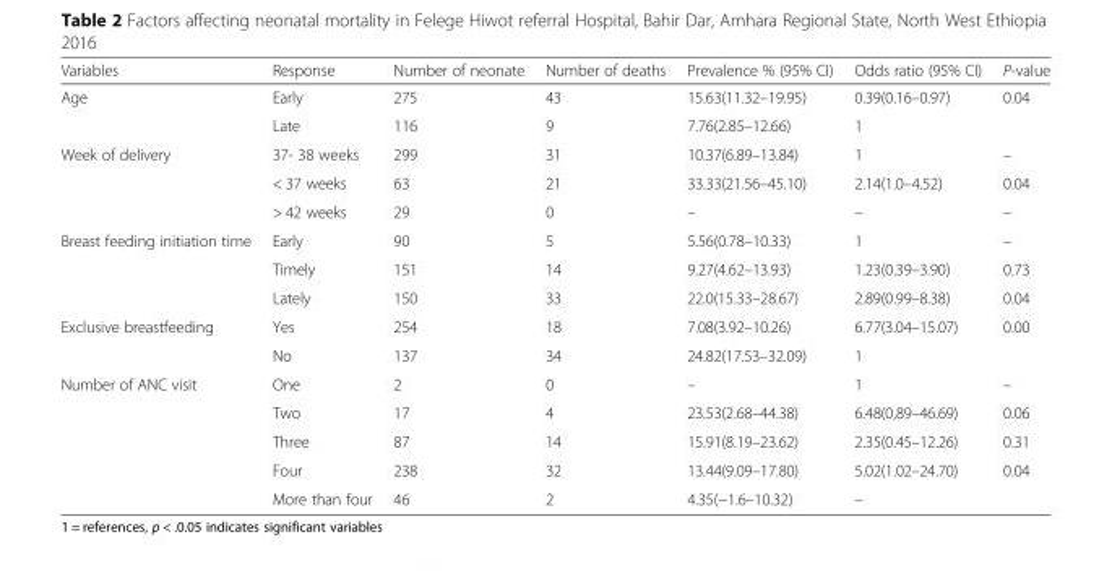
<table><thead><tr><td>Variables</td><td>Response</td><td>Number of neonate</td><td>Number of deaths</td><td>Prevalence % (95% CI)</td><td>Odds ratio (95% CI)</td><td>P-value</td></tr></thead><tbody><tr><td rowspan="2">Age</td><td>Early</td><td>275</td><td>43</td><td>15.63(11.32–19.95)</td><td>0.39(0.16–0.97)</td><td>0.04</td></tr><tr><td>Late</td><td>116</td><td>9</td><td>7.76(2.85–12.66)</td><td>1</td><td></td></tr><tr><td rowspan="3">Week of delivery</td><td>37- 38 weeks</td><td>299</td><td>31</td><td>10.37(6.89–13.84)</td><td>1</td><td>–</td></tr><tr><td>&lt; 37 weeks</td><td>63</td><td>21</td><td>33.33(21.56–45.10)</td><td>2.14(1.0–4.52)</td><td>0.04</td></tr><tr><td>&gt; 42 weeks</td><td>29</td><td>0</td><td>–</td><td>–</td><td>–</td></tr><tr><td rowspan="3">Breast feeding initiation time</td><td>Early</td><td>90</td><td>5</td><td>5.56(0.78–10.33)</td><td>1</td><td>–</td></tr><tr><td>Timely</td><td>151</td><td>14</td><td>9.27(4.62–13.93)</td><td>1.23(0.39–3.90)</td><td>0.73</td></tr><tr><td>Lately</td><td>150</td><td>33</td><td>22.0(15.33–28.67)</td><td>2.89(0.99–8.38)</td><td>0.04</td></tr><tr><td rowspan="2">Exclusive breastfeeding</td><td>Yes</td><td>254</td><td>18</td><td>7.08(3.92–10.26)</td><td>6.77(3.04–15.07)</td><td>0.00</td></tr><tr><td>No</td><td>137</td><td>34</td><td>24.82(17.53–32.09)</td><td>1</td><td></td></tr><tr><td rowspan="5">Number of ANC visit</td><td>One</td><td>2</td><td>0</td><td>–</td><td>1</td><td>–</td></tr><tr><td>Two</td><td>17</td><td>4</td><td>23.53(2.68–44.38)</td><td>6.48(0,89–46.69)</td><td>0.06</td></tr><tr><td>Three</td><td>87</td><td>14</td><td>15.91(8.19–23.62)</td><td>2.35(0.45–12.26)</td><td>0.31</td></tr><tr><td>Four</td><td>238</td><td>32</td><td>13.44(9.09–17.80)</td><td>5.02(1.02–24.70)</td><td>0.04</td></tr><tr><td>More than four</td><td>46</td><td>2</td><td>4.35(−1.6–10.32)</td><td>–</td><td></td></tr></tbody></table>